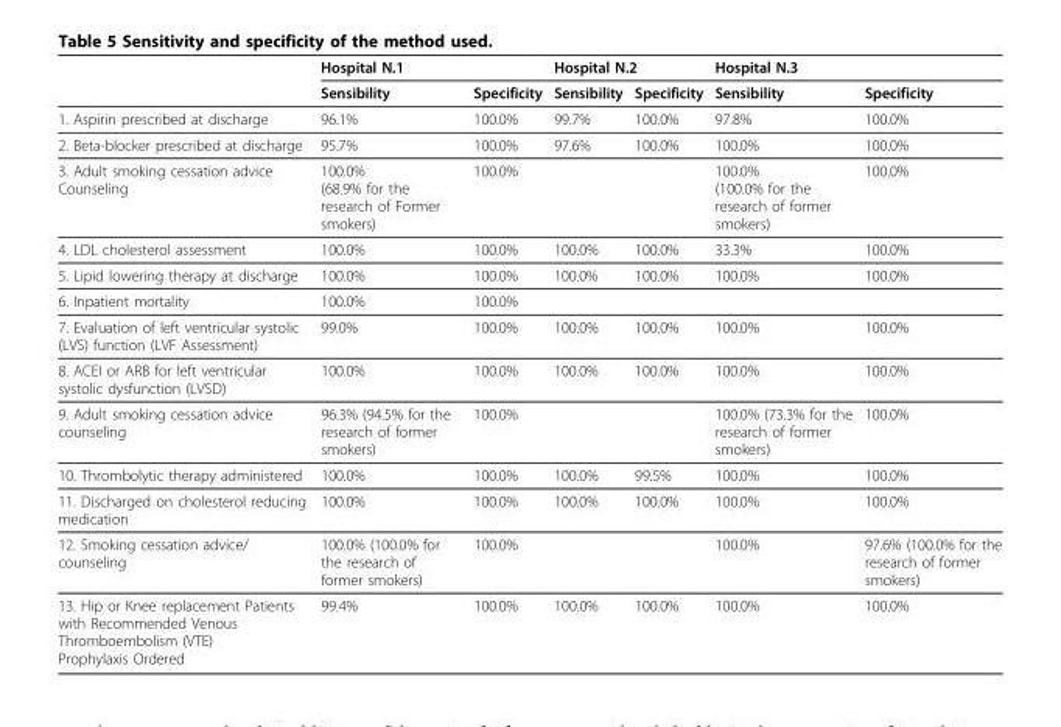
<table><thead><tr><td rowspan="2"></td><td colspan="2">Hospital N.1</td><td colspan="2">Hospital N.2</td><td colspan="2">Hospital N.3</td></tr><tr><td>Sensibility</td><td>Specificity</td><td>Sensibility</td><td>Specificity</td><td>Sensibility</td><td>Specificity</td></tr></thead><tbody><tr><td>1. Aspirin prescribed at discharge</td><td>96.1%</td><td>100.0%</td><td>99.7%</td><td>100.0%</td><td>97.8%</td><td>100.0%</td></tr><tr><td>2. Beta-blocker prescribed at discharge</td><td>95.7%</td><td>100.0%</td><td>97.6%</td><td>100.0%</td><td>100.0%</td><td>100.0%</td></tr><tr><td>3. Adult smoking cessation advice Counseling</td><td>100.0% (68.9% for the research of Former smokers)</td><td>100.0%</td><td></td><td></td><td>100.0% (100.0% for the research of former smokers)</td><td>100.0%</td></tr><tr><td>4. LDL cholesterol assessment</td><td>100.0%</td><td>100.0%</td><td>100.0%</td><td>100.0%</td><td>33.3%</td><td>100.0%</td></tr><tr><td>5. Lipid lowering therapy at discharge</td><td>100.0%</td><td>100.0%</td><td>100.0%</td><td>100.0%</td><td>100.0%</td><td>100.0%</td></tr><tr><td>6. Inpatient mortality</td><td>100.0%</td><td>100.0%</td><td></td><td></td><td></td><td></td></tr><tr><td>7. Evaluation of left ventricular systolic (LVS) function (LVF Assessment)</td><td>99.0%</td><td>100.0%</td><td>100.0%</td><td>100.0%</td><td>100.0%</td><td>100.0%</td></tr><tr><td>8. ACEI or ARB for left ventricular systolic dysfunction (LVSD)</td><td>100.0%</td><td>100.0%</td><td>100.0%</td><td>100.0%</td><td>100.0%</td><td>100.0%</td></tr><tr><td>9. Adult smoking cessation advice counseling</td><td>96.3% (94.5% for the research of former smokers)</td><td>100.0%</td><td></td><td></td><td>100.0% (73.3% for the research of former smokers)</td><td>100.0%</td></tr><tr><td>10. Thrombolytic therapy administered</td><td>100.0%</td><td>100.0%</td><td>100.0%</td><td>99.5%</td><td>100.0%</td><td>100.0%</td></tr><tr><td>11. Discharged on cholesterol reducing medication</td><td>100.0%</td><td>100.0%</td><td>100.0%</td><td>100.0%</td><td>100.0%</td><td>100.0%</td></tr><tr><td>12. Smoking cessation advice/ counseling</td><td>100.0% (100.0% for the research of former smokers)</td><td>100.0%</td><td></td><td></td><td>100.0%</td><td>97.6% (100.0% for the research of former smokers)</td></tr><tr><td>13. Hip or Knee replacement Patients with Recommended Venous Thromboembolism (VTE) Prophylaxis Ordered</td><td>99.4%</td><td>100.0%</td><td>100.0%</td><td>100.0%</td><td>100.0%</td><td>100.0%</td></tr></tbody></table>